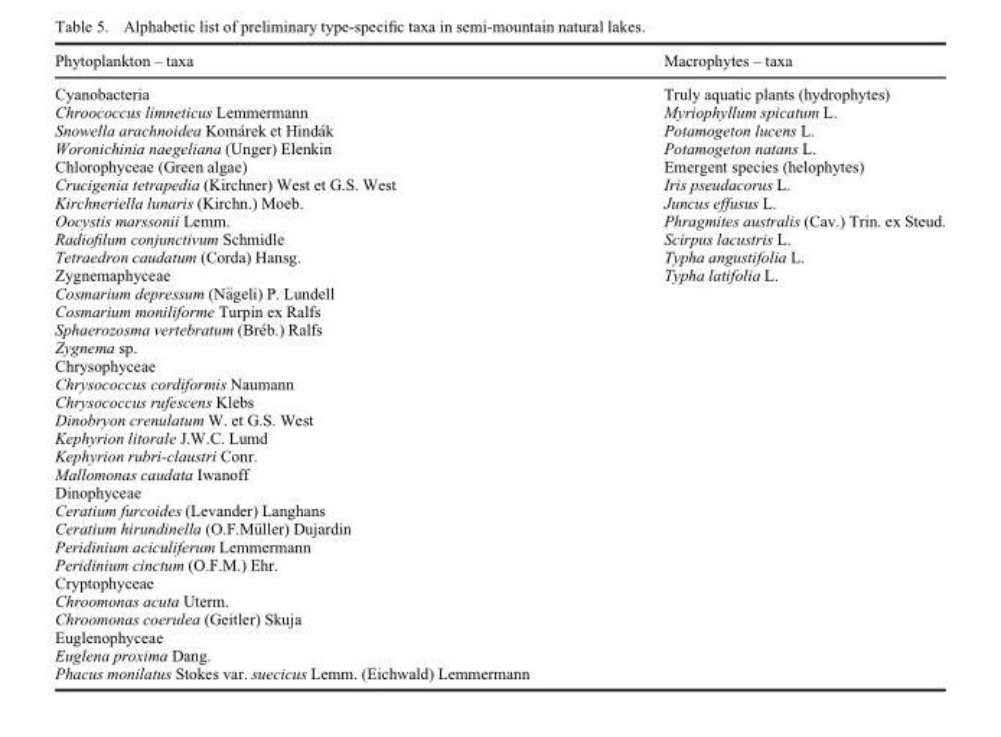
<table><thead><tr><td>Phytoplankton – taxa</td><td>Macrophytes – taxa</td></tr></thead><tbody><tr><td>Cyanobacteria</td><td>Truly aquatic plants (hydrophytes)</td></tr><tr><td>Chroococcus limneticus Lemmermann</td><td>Myriophyllum spicatum L.</td></tr><tr><td>Snowella arachnoidea Kom�arek et Hind�ak</td><td>Potamogeton lucens L.</td></tr><tr><td>Woronichinia naegeliana (Unger) Elenkin</td><td>Potamogeton natans L.</td></tr><tr><td>Chlorophyceae (Green algae)</td><td>Emergent species (helophytes)</td></tr><tr><td>Crucigenia tetrapedia (Kirchner) West et G.S. West</td><td>Iris pseudacorus L.</td></tr><tr><td>Kirchneriella lunaris (Kirchn.) Moeb.</td><td>Juncus effusus L.</td></tr><tr><td>Oocystis marssonii Lemm.</td><td>Phragmites australis (Cav.) Trin. ex Steud.</td></tr><tr><td>Radiofilum conjunctivum Schmidle</td><td>Scirpus lacustris L.</td></tr><tr><td>Tetraedron caudatum (Corda) Hansg.</td><td>Typha angustifolia L.</td></tr><tr><td>Zygnemaphyceae</td><td>Typha latifolia L.</td></tr><tr><td colspan="2">Cosmarium depressum (N€ageli) P. Lundell</td></tr><tr><td colspan="2">Cosmarium moniliforme Turpin ex Ralfs</td></tr><tr><td colspan="2">Sphaerozosma vertebratum (Br�eb.) Ralfs</td></tr><tr><td colspan="2">Zygnema sp.</td></tr><tr><td colspan="2">Chrysophyceae</td></tr><tr><td colspan="2">Chrysococcus cordiformis Naumann</td></tr><tr><td colspan="2">Chrysococcus rufescens Klebs</td></tr><tr><td colspan="2">Dinobryon crenulatum W. et G.S. West</td></tr><tr><td colspan="2">Kephyrion litorale J.W.C. Lumd</td></tr><tr><td colspan="2">Kephyrion rubri-claustri Conr.</td></tr><tr><td colspan="2">Mallomonas caudata Iwanoff</td></tr><tr><td colspan="2">Dinophyceae</td></tr><tr><td colspan="2">Ceratium furcoides (Levander) Langhans</td></tr><tr><td colspan="2">Ceratium hirundinella (O.F.M€uller) Dujardin</td></tr><tr><td colspan="2">Peridinium aciculiferum Lemmermann</td></tr><tr><td colspan="2">Peridinium cinctum (O.F.M.) Ehr.</td></tr><tr><td colspan="2">Cryptophyceae</td></tr><tr><td colspan="2">Chroomonas acuta Uterm.</td></tr><tr><td colspan="2">Chroomonas coerulea (Geitler) Skuja</td></tr><tr><td colspan="2">Euglenophyceae</td></tr><tr><td colspan="2">Euglena proxima Dang.</td></tr><tr><td>Phacus monilatus Stokes var. suecicus Lemm. (Eichwald) Lemmermann</td><td></td></tr></tbody></table>